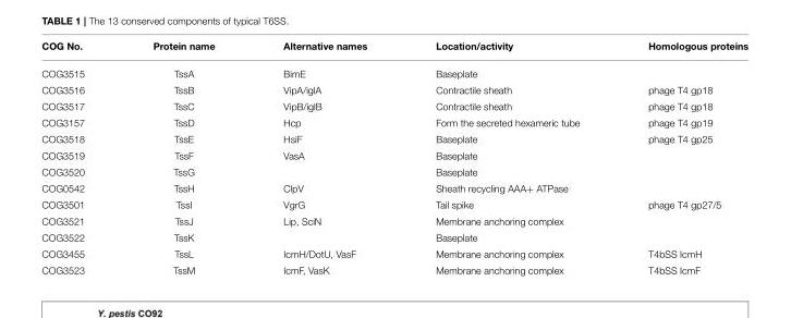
<table><thead><tr><td>COG No.</td><td>Protein name</td><td>Alternative names</td><td>Location/activity</td><td>Homologous proteins</td></tr></thead><tbody><tr><td>COG3515</td><td>TssA</td><td>BimE</td><td>Baseplate</td><td></td></tr><tr><td>COG3516</td><td>TssB</td><td>VipA/iglA</td><td>Contractile sheath</td><td>phage T4 gp18</td></tr><tr><td>COG3517</td><td>TssC</td><td>VipB/iglB</td><td>Contractile sheath</td><td>phage T4 gp18</td></tr><tr><td>COG3157</td><td>TssD</td><td>Hcp</td><td>Form the secreted hexameric tube</td><td>phage T4 gp19</td></tr><tr><td>COG3518</td><td>TssE</td><td>HsiF</td><td>Baseplate</td><td>phage T4 gp25</td></tr><tr><td>COG3519</td><td>TssF</td><td>VasA</td><td>Baseplate</td><td></td></tr><tr><td>COG3520</td><td>TssG</td><td></td><td>Baseplate</td><td></td></tr><tr><td>COG0542</td><td>TssH</td><td>ClpV</td><td>Sheath recycling AAA+ ATPase</td><td></td></tr><tr><td>COG3501</td><td>TssI</td><td>VgrG</td><td>Tail spike</td><td>phage T4 gp27/5</td></tr><tr><td>COG3521</td><td>TssJ</td><td>Lip, SciN</td><td>Membrane anchoring complex</td><td></td></tr><tr><td>COG3522</td><td>TssK</td><td></td><td>Baseplate</td><td></td></tr><tr><td>COG3455</td><td>TssL</td><td>IcmH/DotU, VasF</td><td>Membrane anchoring complex</td><td>T4bSS IcmH</td></tr><tr><td>COG3523</td><td>TssM</td><td>IcmF, VasK</td><td>Membrane anchoring complex</td><td>T4bSS IcmF</td></tr></tbody></table>